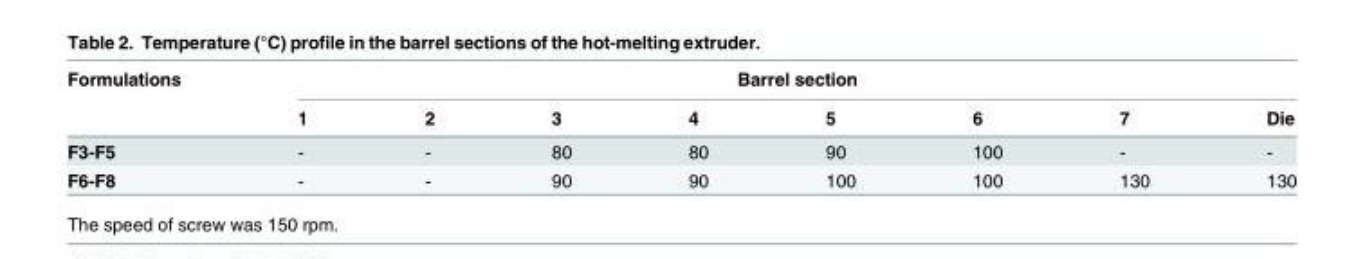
<table><thead><tr><td rowspan="2">Formulations</td><td colspan="8">Barrel section</td></tr><tr><td>1</td><td>2</td><td>3</td><td>4</td><td>5</td><td>6</td><td>7</td><td>Die</td></tr></thead><tbody><tr><td>F3-F5</td><td>-</td><td>-</td><td>80</td><td>80</td><td>90</td><td>100</td><td>-</td><td>-</td></tr><tr><td>F6-F8</td><td>-</td><td>-</td><td>90</td><td>90</td><td>100</td><td>100</td><td>130</td><td>130</td></tr></tbody></table>